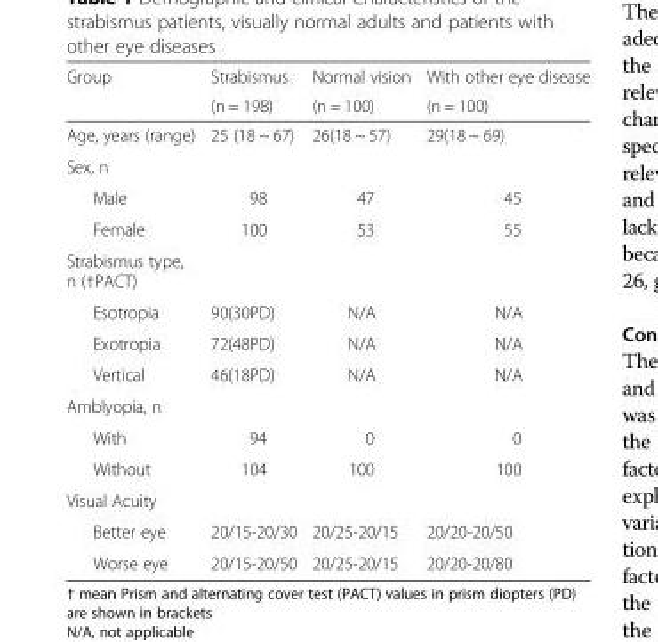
<table><thead><tr><td rowspan="2">Group</td><td rowspan="2">Strabismus (n = 198)</td><td rowspan="2">Normal vision (n = 100)</td><td rowspan="2">With other eye disease (n = 100)</td></tr><tr></tr></thead><tbody><tr><td>Age, years (range)</td><td>25 (18 ~ 67)</td><td>26(18 ~ 57)</td><td>29(18 ~ 69)</td></tr><tr><td colspan="4">Sex, n</td></tr><tr><td>Male</td><td>98</td><td>47</td><td>45</td></tr><tr><td>Female</td><td>100</td><td>53</td><td>55</td></tr><tr><td colspan="4">Strabismus type, n (†PACT)</td></tr><tr><td>Esotropia</td><td>90(30PD)</td><td>N/A</td><td>N/A</td></tr><tr><td>Exotropia</td><td>72(48PD)</td><td>N/A</td><td>N/A</td></tr><tr><td>Vertical</td><td>46(18PD)</td><td>N/A</td><td>N/A</td></tr><tr><td colspan="4">Amblyopia, n</td></tr><tr><td>With</td><td>94</td><td>0</td><td>0</td></tr><tr><td>Without</td><td>104</td><td>100</td><td>100</td></tr><tr><td colspan="4">Visual Acuity</td></tr><tr><td>Better eye</td><td>20/15-20/30</td><td>20/25-20/15</td><td>20/20-20/50</td></tr><tr><td>Worse eye</td><td>20/15-20/50</td><td>20/25-20/15</td><td>20/20-20/80</td></tr></tbody></table>